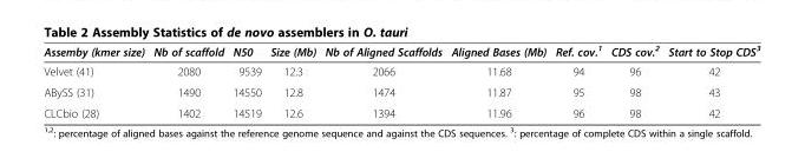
<table><thead><tr><td>Assemby (kmer size)</td><td>Nb of scaffold</td><td>N50</td><td>Size (Mb)</td><td>Nb of Aligned Scaffolds</td><td>Aligned Bases (Mb)</td><td>Ref. cov.<sup>1</sup></td><td>CDS cov.<sup>2</sup></td><td>Start to Stop CDS<sup>3</sup></td></tr></thead><tbody><tr><td>Velvet (41)</td><td>2080</td><td>9539</td><td>12.3</td><td>2066</td><td>11.68</td><td>94</td><td>96</td><td>42</td></tr><tr><td>ABySS (31)</td><td>1490</td><td>14550</td><td>12.8</td><td>1474</td><td>11.87</td><td>95</td><td>98</td><td>43</td></tr><tr><td>CLCbio (28)</td><td>1402</td><td>14519</td><td>12.6</td><td>1394</td><td>11.96</td><td>96</td><td>98</td><td>42</td></tr></tbody></table>